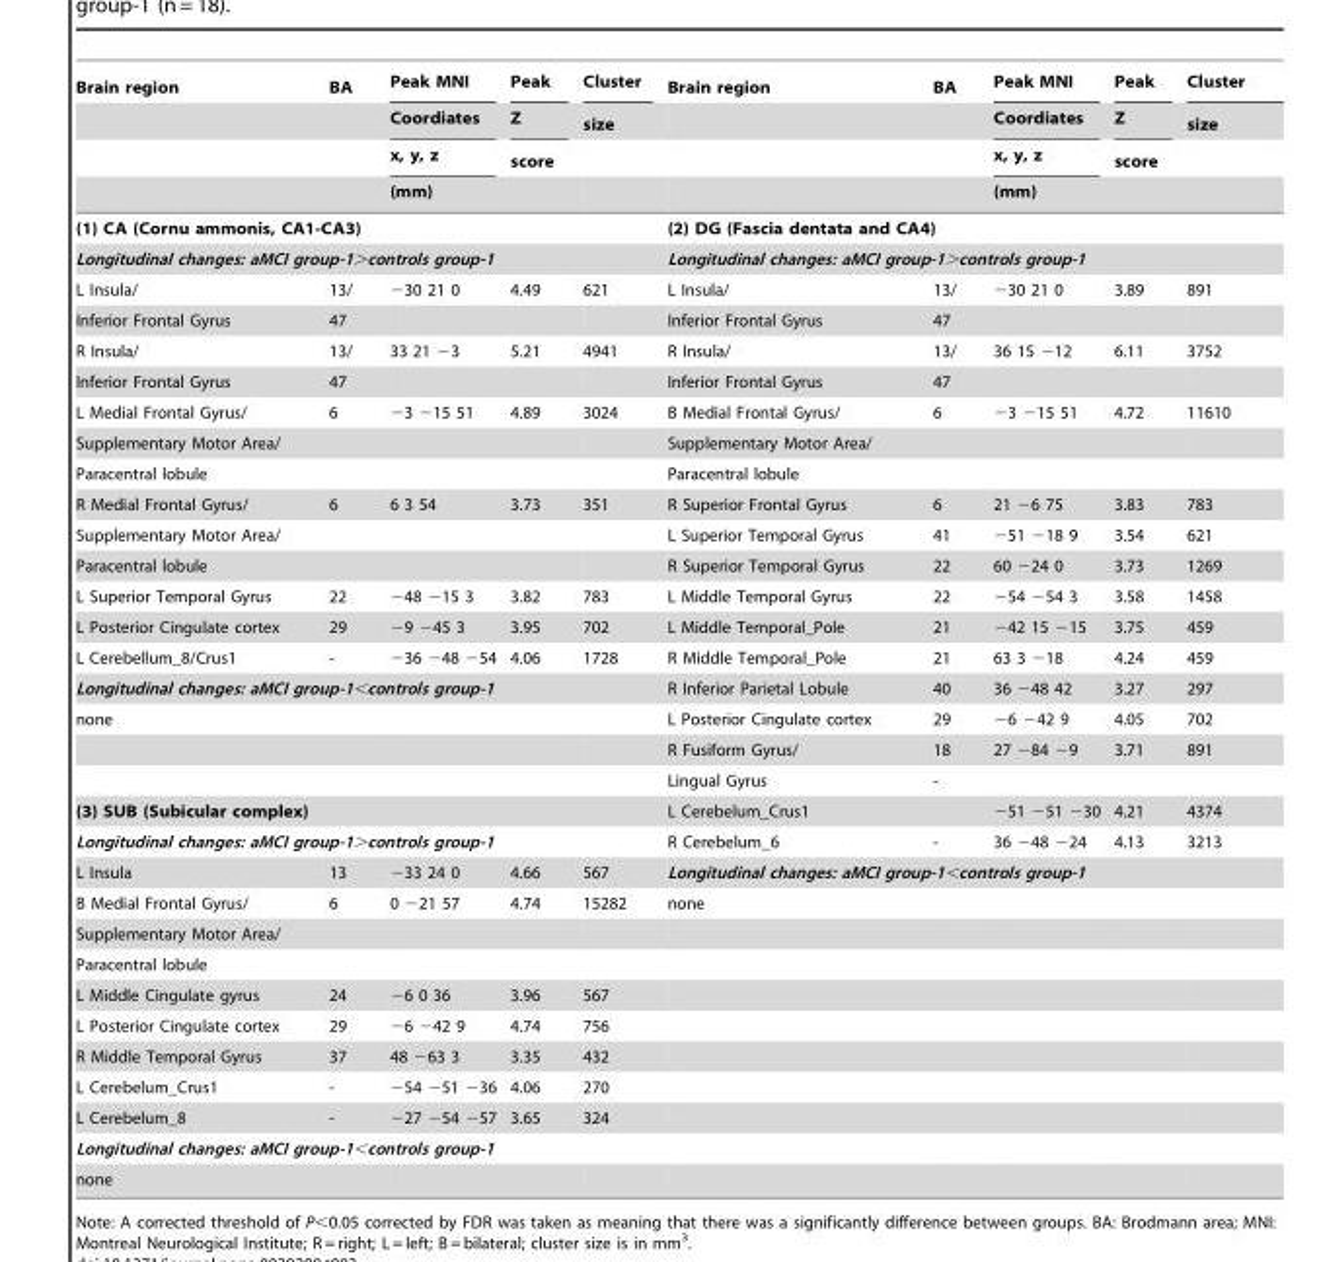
<table><thead><tr><td rowspan="4">Brain region</td><td rowspan="4">BA</td><td rowspan="4">Peak MNI Coordiates x, y, z (mm)</td><td rowspan="4">Peak Z score</td><td rowspan="4">Cluster size</td><td rowspan="4">Brain region</td><td rowspan="4">BA</td><td rowspan="4">Peak MNI Coordiates x, y, z (mm)</td><td rowspan="4">Peak Z score</td><td rowspan="4">Cluster size</td></tr><tr></tr><tr></tr><tr></tr></thead><tbody><tr><td colspan="5">(1) CA (Cornu ammonis, CA1-CA3)</td><td colspan="5">(2) DG (Fascia dentata and CA4)</td></tr><tr><td colspan="5">Longitudinal changes: aMCI group-1&gt;controls group-1</td><td colspan="5">Longitudinal changes: aMCI group-1&gt;controls group-1</td></tr><tr><td>L Insula/</td><td>13/</td><td>−30 21 0</td><td>4.49</td><td>621</td><td>L Insula/</td><td>13/</td><td>−30 21 0</td><td>3.89</td><td>891</td></tr><tr><td>Inferior Frontal Gyrus</td><td>47</td><td></td><td></td><td></td><td>Inferior Frontal Gyrus</td><td>47</td><td></td><td></td><td></td></tr><tr><td>R Insula/</td><td>13/</td><td>33 21 −3</td><td>5.21</td><td>4941</td><td>R Insula/</td><td>13/</td><td>36 15 −12</td><td>6.11</td><td>3752</td></tr><tr><td>Inferior Frontal Gyrus</td><td>47</td><td></td><td></td><td></td><td>Inferior Frontal Gyrus</td><td>47</td><td></td><td></td><td></td></tr><tr><td>L Medial Frontal Gyrus/</td><td>6</td><td>−3 −15 51</td><td>4.89</td><td>3024</td><td>B Medial Frontal Gyrus/</td><td>6</td><td>−3 −15 51</td><td>4.72</td><td>11610</td></tr><tr><td>Supplementary Motor Area/</td><td></td><td></td><td></td><td></td><td>Supplementary Motor Area/</td><td></td><td></td><td></td><td></td></tr><tr><td>Paracentral lobule</td><td></td><td></td><td></td><td></td><td>Paracentral lobule</td><td></td><td></td><td></td><td></td></tr><tr><td>R Medial Frontal Gyrus/</td><td>6</td><td>6 3 54</td><td>3.73</td><td>351</td><td>R Superior Frontal Gyrus</td><td>6</td><td>21 −6 75</td><td>3.83</td><td>783</td></tr><tr><td>Supplementary Motor Area/</td><td></td><td></td><td></td><td></td><td>L Superior Temporal Gyrus</td><td>41</td><td>−51 −18 9</td><td>3.54</td><td>621</td></tr><tr><td>Paracentral lobule</td><td></td><td></td><td></td><td></td><td>R Superior Temporal Gyrus</td><td>22</td><td>60 −24 0</td><td>3.73</td><td>1269</td></tr><tr><td>L Superior Temporal Gyrus</td><td>22</td><td>−48 −15 3</td><td>3.82</td><td>783</td><td>L Middle Temporal Gyrus</td><td>22</td><td>−54 −54 3</td><td>3.58</td><td>1458</td></tr><tr><td>L Posterior Cingulate cortex</td><td>29</td><td>−9 −45 3</td><td>3.95</td><td>702</td><td>L Middle Temporal_Pole</td><td>21</td><td>−42 15 −15</td><td>3.75</td><td>459</td></tr><tr><td>L Cerebellum_8/Crus1</td><td>-</td><td>−36 −48 −54</td><td>4.06</td><td>1728</td><td>R Middle Temporal_Pole</td><td>21</td><td>63 3 −18</td><td>4.24</td><td>459</td></tr><tr><td colspan="5">Longitudinal changes: aMCI group-1&lt;controls group-1</td><td>R Inferior Parietal Lobule</td><td>40</td><td>36 −48 42</td><td>3.27</td><td>297</td></tr><tr><td rowspan="3">none</td><td></td><td></td><td></td><td></td><td>L Posterior Cingulate cortex</td><td>29</td><td>−6 −42 9</td><td>4.05</td><td>702</td></tr><tr><td></td><td></td><td></td><td></td><td>R Fusiform Gyrus/</td><td>18</td><td>27 −84 −9</td><td>3.71</td><td>891</td></tr><tr><td></td><td></td><td></td><td></td><td>Lingual Gyrus</td><td>-</td><td></td><td></td><td></td></tr><tr><td colspan="5">(3) SUB (Subicular complex)</td><td>L Cerebelum_Crus1</td><td></td><td>−51 −51 −30</td><td>4.21</td><td>4374</td></tr><tr><td colspan="5">Longitudinal changes: aMCI group-1&gt;controls group-1</td><td>R Cerebelum_6</td><td>-</td><td>36 −48 −24</td><td>4.13</td><td>3213</td></tr><tr><td>L Insula</td><td>13</td><td>−33 24 0</td><td>4.66</td><td>567</td><td colspan="5">Longitudinal changes: aMCI group-1&lt;controls group-1</td></tr><tr><td>B Medial Frontal Gyrus/</td><td>6</td><td>0 −21 57</td><td>4.74</td><td>15282</td><td>none</td><td></td><td></td><td></td><td></td></tr><tr><td colspan="10">Supplementary Motor Area/</td></tr><tr><td colspan="10">Paracentral lobule</td></tr><tr><td>L Middle Cingulate gyrus</td><td>24</td><td>−6 0 36</td><td>3.96</td><td>567</td><td></td><td></td><td></td><td></td><td></td></tr><tr><td>L Posterior Cingulate cortex</td><td>29</td><td>−6 −42 9</td><td>4.74</td><td>756</td><td></td><td></td><td></td><td></td><td></td></tr><tr><td>R Middle Temporal Gyrus</td><td>37</td><td>48 −63 3</td><td>3.35</td><td>432</td><td></td><td></td><td></td><td></td><td></td></tr><tr><td>L Cerebelum_Crus1</td><td>-</td><td>−54 −51 −36</td><td>4.06</td><td>270</td><td></td><td></td><td></td><td></td><td></td></tr><tr><td>L Cerebelum_8</td><td>-</td><td>−27 −54 −57</td><td>3.65</td><td>324</td><td></td><td></td><td></td><td></td><td></td></tr><tr><td colspan="10">Longitudinal changes: aMCI group-1&lt;controls group-1</td></tr><tr><td>none</td><td></td><td></td><td></td><td></td><td></td><td></td><td></td><td></td><td></td></tr></tbody></table>